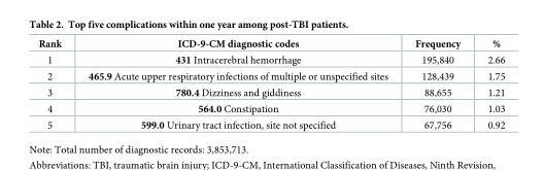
<table><thead><tr><td>Rank</td><td>ICD-9-CM diagnostic codes</td><td>Frequency</td><td>%</td></tr></thead><tbody><tr><td>1</td><td>431 Intracerebral hemorrhage</td><td>195,840</td><td>2.66</td></tr><tr><td>2</td><td>465.9 Acute upper respiratory infections of multiple or unspecified sites</td><td>128,439</td><td>1.75</td></tr><tr><td>3</td><td>780.4 Dizziness and giddiness</td><td>88,655</td><td>1.21</td></tr><tr><td>4</td><td>564.0 Constipation</td><td>76,030</td><td>1.03</td></tr><tr><td>5</td><td>599.0 Urinary tract infection, site not specified</td><td>67,756</td><td>0.92</td></tr></tbody></table>